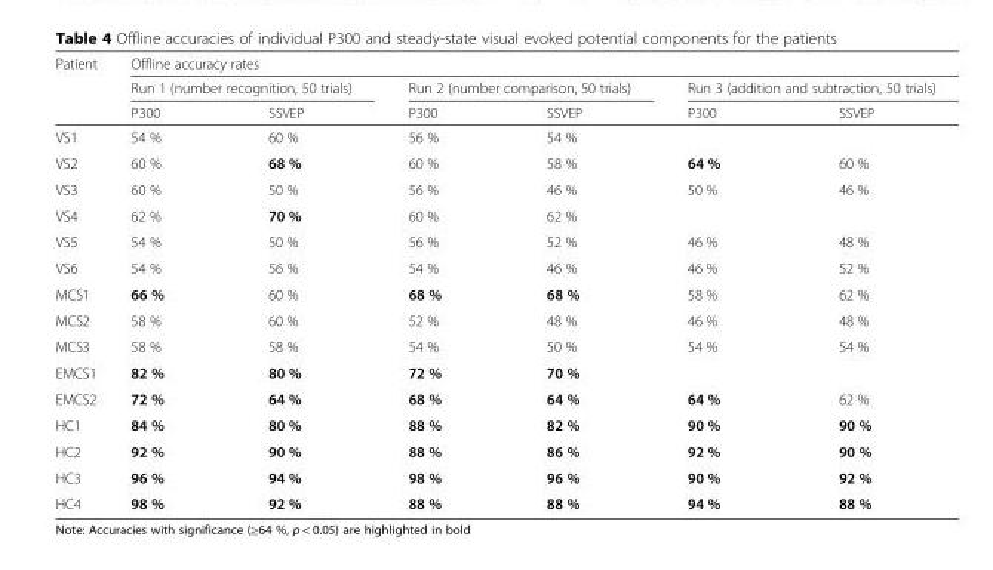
<table><thead><tr><td rowspan="3">Patient</td><td colspan="6">Offline accuracy rates</td></tr><tr><td colspan="2">Run 1 (number recognition, 50 trials)</td><td colspan="2">Run 2 (number comparison, 50 trials)</td><td colspan="2">Run 3 (addition and subtraction, 50 trials)</td></tr><tr><td>P300</td><td>SSVEP</td><td>P300</td><td>SSVEP</td><td>P300</td><td>SSVEP</td></tr></thead><tbody><tr><td>VS1</td><td>54 %</td><td>60 %</td><td>56 %</td><td>54 %</td><td colspan="2"></td></tr><tr><td>VS2</td><td>60 %</td><td>68 %</td><td>60 %</td><td>58 %</td><td>64 %</td><td>60 %</td></tr><tr><td>VS3</td><td>60 %</td><td>50 %</td><td>56 %</td><td>46 %</td><td>50 %</td><td>46 %</td></tr><tr><td>VS4</td><td>62 %</td><td>70 %</td><td>60 %</td><td>62 %</td><td colspan="2"></td></tr><tr><td>VS5</td><td>54 %</td><td>50 %</td><td>56 %</td><td>52 %</td><td>46 %</td><td>48 %</td></tr><tr><td>VS6</td><td>54 %</td><td>56 %</td><td>54 %</td><td>46 %</td><td>46 %</td><td>52 %</td></tr><tr><td>MCS1</td><td>66 %</td><td>60 %</td><td>68 %</td><td>68 %</td><td>58 %</td><td>62 %</td></tr><tr><td>MCS2</td><td>58 %</td><td>60 %</td><td>52 %</td><td>48 %</td><td>46 %</td><td>48 %</td></tr><tr><td>MCS3</td><td>58 %</td><td>58 %</td><td>54 %</td><td>50 %</td><td>54 %</td><td>54 %</td></tr><tr><td>EMCS1</td><td>82 %</td><td>80 %</td><td>72 %</td><td>70 %</td><td colspan="2"></td></tr><tr><td>EMCS2</td><td>72 %</td><td>64 %</td><td>68 %</td><td>64 %</td><td>64 %</td><td>62 %</td></tr><tr><td>HC1</td><td>84 %</td><td>80 %</td><td>88 %</td><td>82 %</td><td>90 %</td><td>90 %</td></tr><tr><td>HC2</td><td>92 %</td><td>90 %</td><td>88 %</td><td>86 %</td><td>92 %</td><td>90 %</td></tr><tr><td>HC3</td><td>96 %</td><td>94 %</td><td>98 %</td><td>96 %</td><td>90 %</td><td>92 %</td></tr><tr><td>HC4</td><td>98 %</td><td>92 %</td><td>88 %</td><td>88 %</td><td>94 %</td><td>88 %</td></tr></tbody></table>